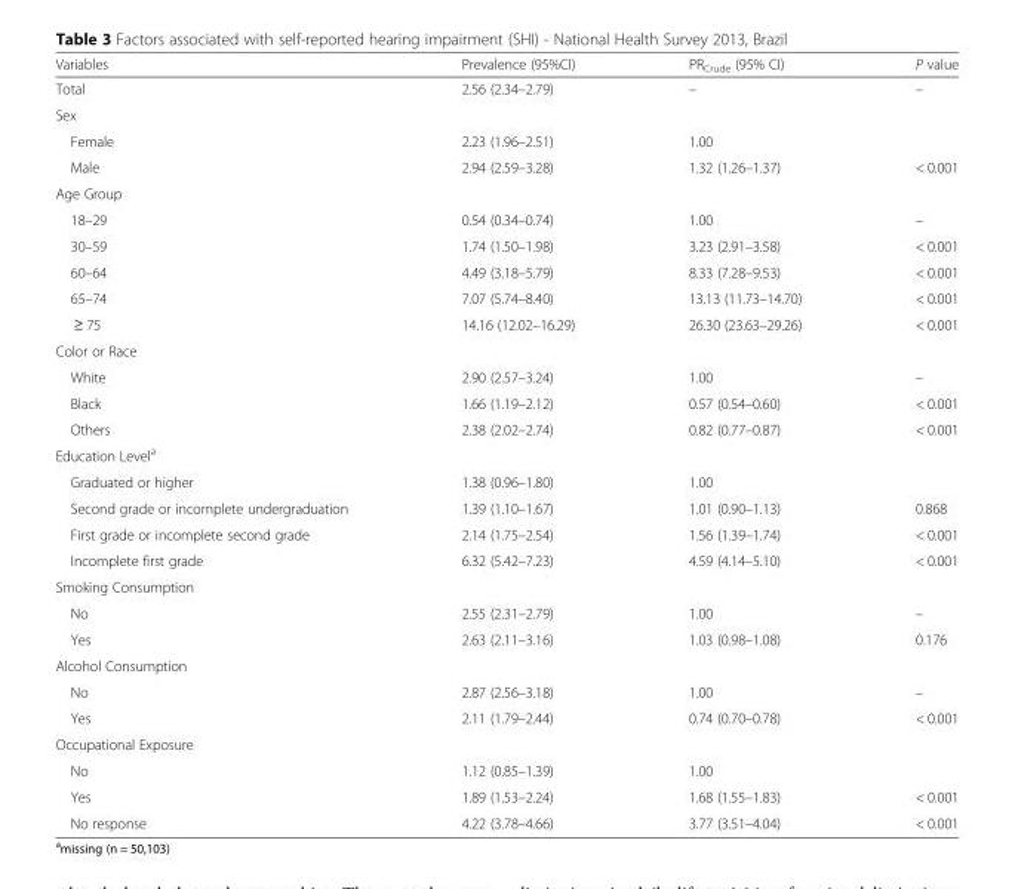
<table><thead><tr><td>Variables</td><td>Prevalence (95%CI)</td><td>PR<sub>Crude</sub> (95% CI)</td><td>P value</td></tr></thead><tbody><tr><td>Total</td><td>2.56 (2.34–2.79)</td><td>–</td><td>–</td></tr><tr><td colspan="4">Sex</td></tr><tr><td>Female</td><td>2.23 (1.96–2.51)</td><td>1.00</td><td></td></tr><tr><td>Male</td><td>2.94 (2.59–3.28)</td><td>1.32 (1.26–1.37)</td><td>&lt; 0.001</td></tr><tr><td colspan="4">Age Group</td></tr><tr><td>18–29</td><td>0.54 (0.34–0.74)</td><td>1.00</td><td>–</td></tr><tr><td>30–59</td><td>1.74 (1.50–1.98)</td><td>3.23 (2.91–3.58)</td><td>&lt; 0.001</td></tr><tr><td>60–64</td><td>4.49 (3.18–5.79)</td><td>8.33 (7.28–9.53)</td><td>&lt; 0.001</td></tr><tr><td>65–74</td><td>7.07 (5.74–8.40)</td><td>13.13 (11.73–14.70)</td><td>&lt; 0.001</td></tr><tr><td>≥ 75</td><td>14.16 (12.02–16.29)</td><td>26.30 (23.63–29.26)</td><td>&lt; 0.001</td></tr><tr><td colspan="4">Color or Race</td></tr><tr><td>White</td><td>2.90 (2.57–3.24)</td><td>1.00</td><td>–</td></tr><tr><td>Black</td><td>1.66 (1.19–2.12)</td><td>0.57 (0.54–0.60)</td><td>&lt; 0.001</td></tr><tr><td>Others</td><td>2.38 (2.02–2.74)</td><td>0.82 (0.77–0.87)</td><td>&lt; 0.001</td></tr><tr><td colspan="4">Education Level<sup>a</sup></td></tr><tr><td>Graduated or higher</td><td>1.38 (0.96–1.80)</td><td>1.00</td><td></td></tr><tr><td>Second grade or incomplete undergraduation</td><td>1.39 (1.10–1.67)</td><td>1.01 (0.90–1.13)</td><td>0.868</td></tr><tr><td>First grade or incomplete second grade</td><td>2.14 (1.75–2.54)</td><td>1.56 (1.39–1.74)</td><td>&lt; 0.001</td></tr><tr><td>Incomplete first grade</td><td>6.32 (5.42–7.23)</td><td>4.59 (4.14–5.10)</td><td>&lt; 0.001</td></tr><tr><td colspan="4">Smoking Consumption</td></tr><tr><td>No</td><td>2.55 (2.31–2.79)</td><td>1.00</td><td>–</td></tr><tr><td>Yes</td><td>2.63 (2.11–3.16)</td><td>1.03 (0.98–1.08)</td><td>0.176</td></tr><tr><td colspan="4">Alcohol Consumption</td></tr><tr><td>No</td><td>2.87 (2.56–3.18)</td><td>1.00</td><td>–</td></tr><tr><td>Yes</td><td>2.11 (1.79–2.44)</td><td>0.74 (0.70–0.78)</td><td>&lt; 0.001</td></tr><tr><td colspan="4">Occupational Exposure</td></tr><tr><td>No</td><td>1.12 (0.85–1.39)</td><td>1.00</td><td></td></tr><tr><td>Yes</td><td>1.89 (1.53–2.24)</td><td>1.68 (1.55–1.83)</td><td>&lt; 0.001</td></tr><tr><td>No response</td><td>4.22 (3.78–4.66)</td><td>3.77 (3.51–4.04)</td><td>&lt; 0.001</td></tr></tbody></table>